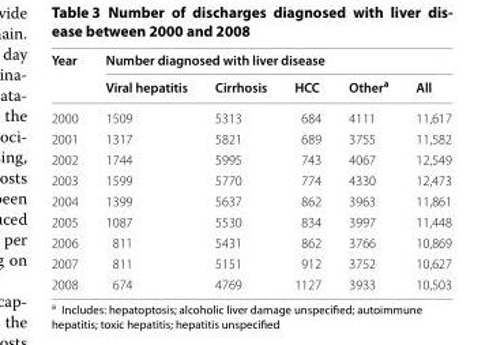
<table><thead><tr><td rowspan="2">Year</td><td colspan="5">Number diagnosed with liver disease</td></tr><tr><td>Viral hepatitis</td><td>Cirrhosis</td><td>HCC</td><td>Other<sup>a</sup></td><td>All</td></tr></thead><tbody><tr><td>2000</td><td>1509</td><td>5313</td><td>684</td><td>4111</td><td>11,617</td></tr><tr><td>2001</td><td>1317</td><td>5821</td><td>689</td><td>3755</td><td>11,582</td></tr><tr><td>2002</td><td>1744</td><td>5995</td><td>743</td><td>4067</td><td>12,549</td></tr><tr><td>2003</td><td>1599</td><td>5770</td><td>774</td><td>4330</td><td>12,473</td></tr><tr><td>2004</td><td>1399</td><td>5637</td><td>862</td><td>3963</td><td>11,861</td></tr><tr><td>2005</td><td>1087</td><td>5530</td><td>834</td><td>3997</td><td>11,448</td></tr><tr><td>2006</td><td>811</td><td>5431</td><td>862</td><td>3766</td><td>10,869</td></tr><tr><td>2007</td><td>811</td><td>5151</td><td>912</td><td>3752</td><td>10,627</td></tr><tr><td>2008</td><td>674</td><td>4769</td><td>1127</td><td>3933</td><td>10,503</td></tr></tbody></table>